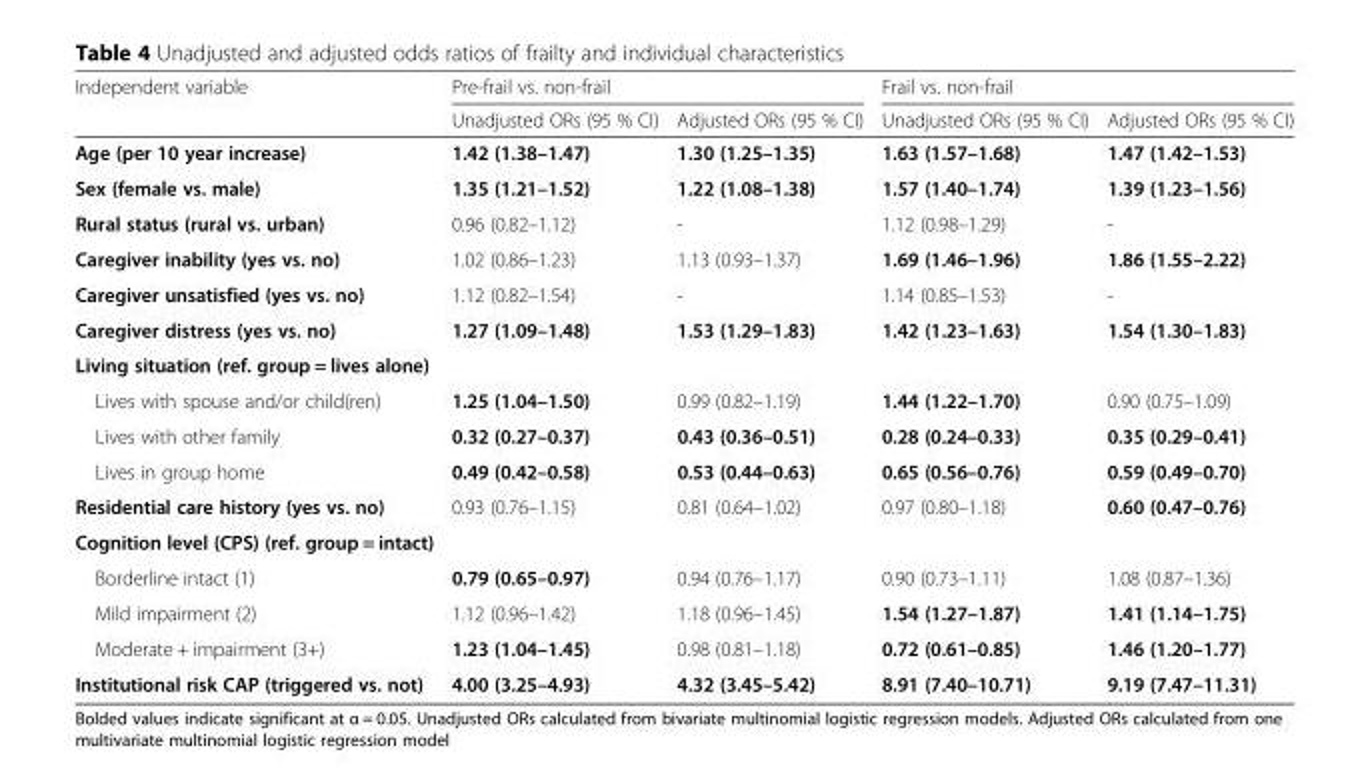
<table><thead><tr><td rowspan="2">Independent variable</td><td colspan="2">Pre-frail vs. non-frail</td><td colspan="2">Frail vs. non-frail</td></tr><tr><td>Unadjusted ORs (95 % CI)</td><td>Adjusted ORs (95 % CI)</td><td>Unadjusted ORs (95 % CI)</td><td>Adjusted ORs (95 % CI)</td></tr></thead><tbody><tr><td>Age (per 10 year increase)</td><td>1.42 (1.38–1.47)</td><td>1.30 (1.25–1.35)</td><td>1.63 (1.57–1.68)</td><td>1.47 (1.42–1.53)</td></tr><tr><td>Sex (female vs. male)</td><td>1.35 (1.21–1.52)</td><td>1.22 (1.08–1.38)</td><td>1.57 (1.40–1.74)</td><td>1.39 (1.23–1.56)</td></tr><tr><td>Rural status (rural vs. urban)</td><td>0.96 (0.82–1.12)</td><td>-</td><td>1.12 (0.98–1.29)</td><td>-</td></tr><tr><td>Caregiver inability (yes vs. no)</td><td>1.02 (0.86–1.23)</td><td>1.13 (0.93–1.37)</td><td>1.69 (1.46–1.96)</td><td>1.86 (1.55–2.22)</td></tr><tr><td>Caregiver unsatisfied (yes vs. no)</td><td>1.12 (0.82–1.54)</td><td>-</td><td>1.14 (0.85–1.53)</td><td>-</td></tr><tr><td>Caregiver distress (yes vs. no)</td><td>1.27 (1.09–1.48)</td><td>1.53 (1.29–1.83)</td><td>1.42 (1.23–1.63)</td><td>1.54 (1.30–1.83)</td></tr><tr><td colspan="5">Living situation (ref. group = lives alone)</td></tr><tr><td>Lives with spouse and/or child(ren)</td><td>1.25 (1.04–1.50)</td><td>0.99 (0.82–1.19)</td><td>1.44 (1.22–1.70)</td><td>0.90 (0.75–1.09)</td></tr><tr><td>Lives with other family</td><td>0.32 (0.27–0.37)</td><td>0.43 (0.36–0.51)</td><td>0.28 (0.24–0.33)</td><td>0.35 (0.29–0.41)</td></tr><tr><td>Lives in group home</td><td>0.49 (0.42–0.58)</td><td>0.53 (0.44–0.63)</td><td>0.65 (0.56–0.76)</td><td>0.59 (0.49–0.70)</td></tr><tr><td>Residential care history (yes vs. no)</td><td>0.93 (0.76–1.15)</td><td>0.81 (0.64–1.02)</td><td>0.97 (0.80–1.18)</td><td>0.60 (0.47–0.76)</td></tr><tr><td colspan="5">Cognition level (CPS) (ref. group = intact)</td></tr><tr><td>Borderline intact (1)</td><td>0.79 (0.65–0.97)</td><td>0.94 (0.76–1.17)</td><td>0.90 (0.73–1.11)</td><td>1.08 (0.87–1.36)</td></tr><tr><td>Mild impairment (2)</td><td>1.12 (0.96–1.42)</td><td>1.18 (0.96–1.45)</td><td>1.54 (1.27–1.87)</td><td>1.41 (1.14–1.75)</td></tr><tr><td>Moderate + impairment (3+)</td><td>1.23 (1.04–1.45)</td><td>0.98 (0.81–1.18)</td><td>0.72 (0.61–0.85)</td><td>1.46 (1.20–1.77)</td></tr><tr><td>Institutional risk CAP (triggered vs. not)</td><td>4.00 (3.25–4.93)</td><td>4.32 (3.45–5.42)</td><td>8.91 (7.40–10.71)</td><td>9.19 (7.47–11.31)</td></tr></tbody></table>